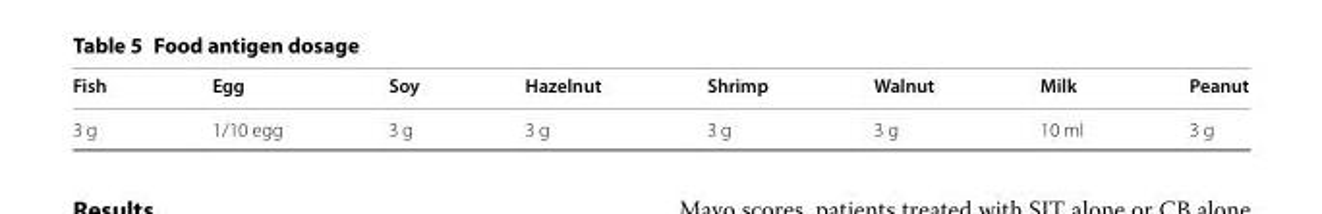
<table><thead><tr><td>Fish</td><td>Egg</td><td>Soy</td><td>Hazelnut</td><td>Shrimp</td><td>Walnut</td><td>Milk</td><td>Peanut</td></tr></thead><tbody><tr><td>3 g</td><td>1/10 egg</td><td>3 g</td><td>3 g</td><td>3 g</td><td>3 g</td><td>10 ml</td><td>3 g</td></tr></tbody></table>